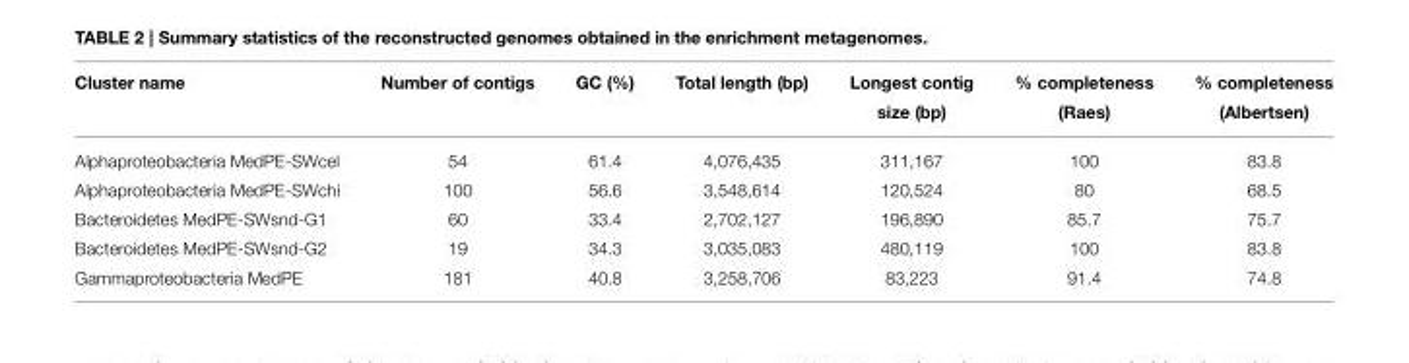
<table><thead><tr><td>Cluster name</td><td>Number of contigs</td><td>GC (%)</td><td>Total length (bp)</td><td>Longest contig size (bp)</td><td>% completeness (Raes)</td><td>% completeness (Albertsen)</td></tr></thead><tbody><tr><td>Alphaproteobacteria MedPE-SWcel</td><td>54</td><td>61.4</td><td>4,076,435</td><td>311,167</td><td>100</td><td>83.8</td></tr><tr><td>Alphaproteobacteria MedPE-SWchi</td><td>100</td><td>56.6</td><td>3,548,614</td><td>120,524</td><td>80</td><td>68.5</td></tr><tr><td>Bacteroidetes MedPE-SWsnd-G1</td><td>60</td><td>33.4</td><td>2,702,127</td><td>196,890</td><td>85.7</td><td>75.7</td></tr><tr><td>Bacteroidetes MedPE-SWsnd-G2</td><td>19</td><td>34.3</td><td>3,035,083</td><td>480,119</td><td>100</td><td>83.8</td></tr><tr><td>Gammaproteobacteria MedPE</td><td>181</td><td>40.8</td><td>3,258,706</td><td>83,223</td><td>91.4</td><td>74.8</td></tr></tbody></table>